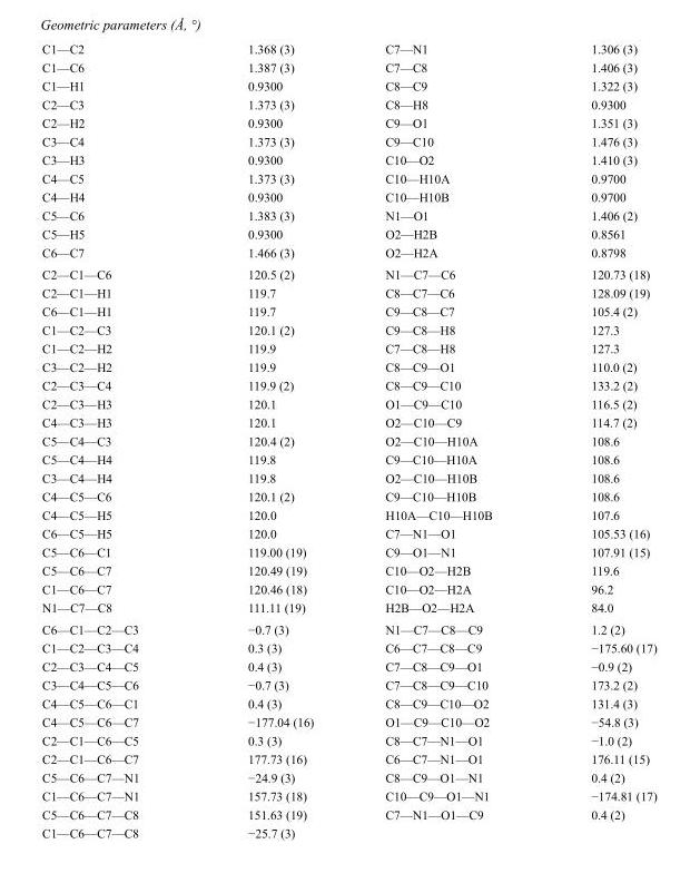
<table><tbody><tr><td>C1—C2</td><td>1.368 (3)</td><td>C7—N1</td><td>1.306 (3)</td></tr><tr><td>C1—C6</td><td>1.387 (3)</td><td>C7—C8</td><td>1.406 (3)</td></tr><tr><td>C1—H1</td><td>0.9300</td><td>C8—C9</td><td>1.322 (3)</td></tr><tr><td>C2—C3</td><td>1.373 (3)</td><td>C8—H8</td><td>0.9300</td></tr><tr><td>C2—H2</td><td>0.9300</td><td>C9—O1</td><td>1.351 (3)</td></tr><tr><td>C3—C4</td><td>1.373 (3)</td><td>C9—C10</td><td>1.476 (3)</td></tr><tr><td>C3—H3</td><td>0.9300</td><td>C10—O2</td><td>1.410 (3)</td></tr><tr><td>C4—C5</td><td>1.373 (3)</td><td>C10—H10A</td><td>0.9700</td></tr><tr><td>C4—H4</td><td>0.9300</td><td>C10—H10B</td><td>0.9700</td></tr><tr><td>C5—C6</td><td>1.383 (3)</td><td>N1—O1</td><td>1.406 (2)</td></tr><tr><td>C5—H5</td><td>0.9300</td><td>O2—H2B</td><td>0.8561</td></tr><tr><td>C6—C7</td><td>1.466 (3)</td><td>O2—H2A</td><td>0.8798</td></tr><tr><td>C2—C1—C6</td><td>120.5 (2)</td><td>N1—C7—C6</td><td>120.73 (18)</td></tr><tr><td>C2—C1—H1</td><td>119.7</td><td>C8—C7—C6</td><td>128.09 (19)</td></tr><tr><td>C6—C1—H1</td><td>119.7</td><td>C9—C8—C7</td><td>105.4 (2)</td></tr><tr><td>C1—C2—C3</td><td>120.1 (2)</td><td>C9—C8—H8</td><td>127.3</td></tr><tr><td>C1—C2—H2</td><td>119.9</td><td>C7—C8—H8</td><td>127.3</td></tr><tr><td>C3—C2—H2</td><td>119.9</td><td>C8—C9—O1</td><td>110.0 (2)</td></tr><tr><td>C2—C3—C4</td><td>119.9 (2)</td><td>C8—C9—C10</td><td>133.2 (2)</td></tr><tr><td>C2—C3—H3</td><td>120.1</td><td>O1—C9—C10</td><td>116.5 (2)</td></tr><tr><td>C4—C3—H3</td><td>120.1</td><td>O2—C10—C9</td><td>114.7 (2)</td></tr><tr><td>C5—C4—C3</td><td>120.4 (2)</td><td>O2—C10—H10A</td><td>108.6</td></tr><tr><td>C5—C4—H4</td><td>119.8</td><td>C9—C10—H10A</td><td>108.6</td></tr><tr><td>C3—C4—H4</td><td>119.8</td><td>O2—C10—H10B</td><td>108.6</td></tr><tr><td>C4—C5—C6</td><td>120.1 (2)</td><td>C9—C10—H10B</td><td>108.6</td></tr><tr><td>C4—C5—H5</td><td>120.0</td><td>H10A—C10—H10B</td><td>107.6</td></tr><tr><td>C6—C5—H5</td><td>120.0</td><td>C7—N1—O1</td><td>105.53 (16)</td></tr><tr><td>C5—C6—C1</td><td>119.00 (19)</td><td>C9—O1—N1</td><td>107.91 (15)</td></tr><tr><td>C5—C6—C7</td><td>120.49 (19)</td><td>C10—O2—H2B</td><td>119.6</td></tr><tr><td>C1—C6—C7</td><td>120.46 (18)</td><td>C10—O2—H2A</td><td>96.2</td></tr><tr><td>N1—C7—C8</td><td>111.11 (19)</td><td>H2B—O2—H2A</td><td>84.0</td></tr><tr><td>C6—C1—C2—C3</td><td>−0.7 (3)</td><td>N1—C7—C8—C9</td><td>1.2 (2)</td></tr><tr><td>C1—C2—C3—C4</td><td>0.3 (3)</td><td>C6—C7—C8—C9</td><td>−175.60 (17)</td></tr><tr><td>C2—C3—C4—C5</td><td>0.4 (3)</td><td>C7—C8—C9—O1</td><td>−0.9 (2)</td></tr><tr><td>C3—C4—C5—C6</td><td>−0.7 (3)</td><td>C7—C8—C9—C10</td><td>173.2 (2)</td></tr><tr><td>C4—C5—C6—C1</td><td>0.4 (3)</td><td>C8—C9—C10—O2</td><td>131.4 (3)</td></tr><tr><td>C4—C5—C6—C7</td><td>−177.04 (16)</td><td>O1—C9—C10—O2</td><td>−54.8 (3)</td></tr><tr><td>C2—C1—C6—C5</td><td>0.3 (3)</td><td>C8—C7—N1—O1</td><td>−1.0 (2)</td></tr><tr><td>C2—C1—C6—C7</td><td>177.73 (16)</td><td>C6—C7—N1—O1</td><td>176.11 (15)</td></tr><tr><td>C5—C6—C7—N1</td><td>−24.9 (3)</td><td>C8—C9—O1—N1</td><td>0.4 (2)</td></tr><tr><td>C1—C6—C7—N1</td><td>157.73 (18)</td><td>C10—C9—O1—N1</td><td>−174.81 (17)</td></tr><tr><td>C5—C6—C7—C8</td><td>151.63 (19)</td><td>C7—N1—O1—C9</td><td>0.4 (2)</td></tr><tr><td>C1—C6—C7—C8</td><td>−25.7 (3)</td><td></td><td></td></tr></tbody></table>